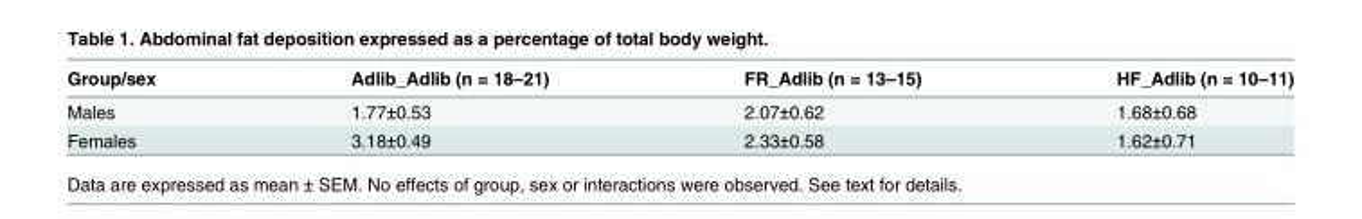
<table><thead><tr><td>Group/sex</td><td>Adlib_Adlib (n = 18–21)</td><td>FR_Adlib (n = 13–15)</td><td>HF_Adlib (n = 10–11)</td></tr></thead><tbody><tr><td>Males</td><td>1.77±0.53</td><td>2.07±0.62</td><td>1.68±0.68</td></tr><tr><td>Females</td><td>3.18±0.49</td><td>2.33±0.58</td><td>1.62±0.71</td></tr></tbody></table>